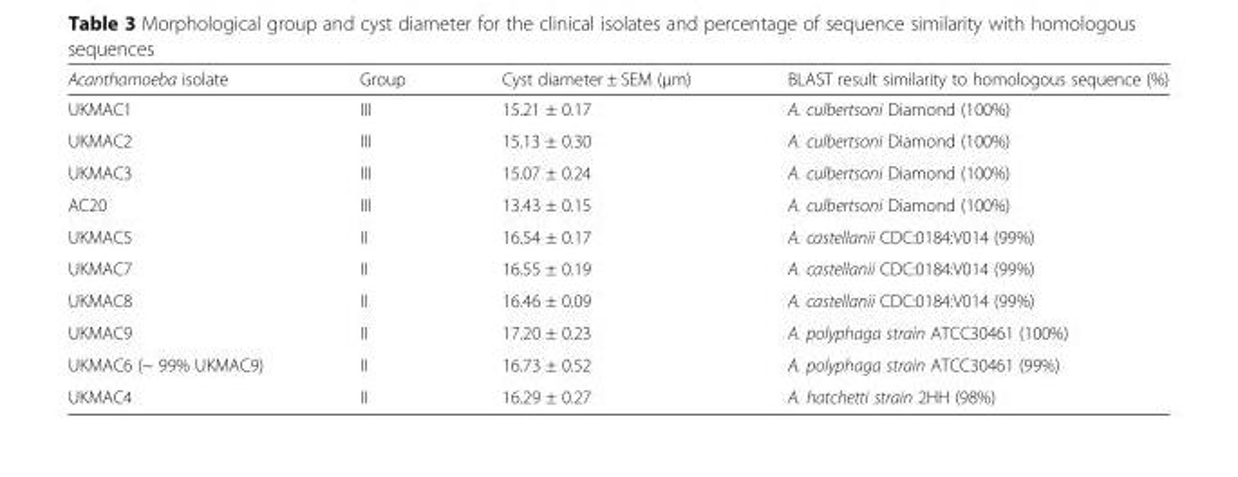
<table><thead><tr><td>Acanthamoeba isolate</td><td>Group</td><td>Cyst diameter ± SEM (μm)</td><td>BLAST result similarity to homologous sequence (%)</td></tr></thead><tbody><tr><td>UKMAC1</td><td>III</td><td>15.21 ± 0.17</td><td>A. culbertsoni Diamond (100%)</td></tr><tr><td>UKMAC2</td><td>III</td><td>15.13 ± 0.30</td><td>A. culbertsoni Diamond (100%)</td></tr><tr><td>UKMAC3</td><td>III</td><td>15.07 ± 0.24</td><td>A. culbertsoni Diamond (100%)</td></tr><tr><td>AC20</td><td>III</td><td>13.43 ± 0.15</td><td>A. culbertsoni Diamond (100%)</td></tr><tr><td>UKMAC5</td><td>II</td><td>16.54 ± 0.17</td><td>A. castellanii CDC:0184:V014 (99%)</td></tr><tr><td>UKMAC7</td><td>II</td><td>16.55 ± 0.19</td><td>A. castellanii CDC:0184:V014 (99%)</td></tr><tr><td>UKMAC8</td><td>II</td><td>16.46 ± 0.09</td><td>A. castellanii CDC:0184:V014 (99%)</td></tr><tr><td>UKMAC9</td><td>II</td><td>17.20 ± 0.23</td><td>A. polyphaga strain ATCC30461 (100%)</td></tr><tr><td>UKMAC6 (~ 99% UKMAC9)</td><td>II</td><td>16.73 ± 0.52</td><td>A. polyphaga strain ATCC30461 (99%)</td></tr><tr><td>UKMAC4</td><td>II</td><td>16.29 ± 0.27</td><td>A. hatchetti strain 2HH (98%)</td></tr></tbody></table>